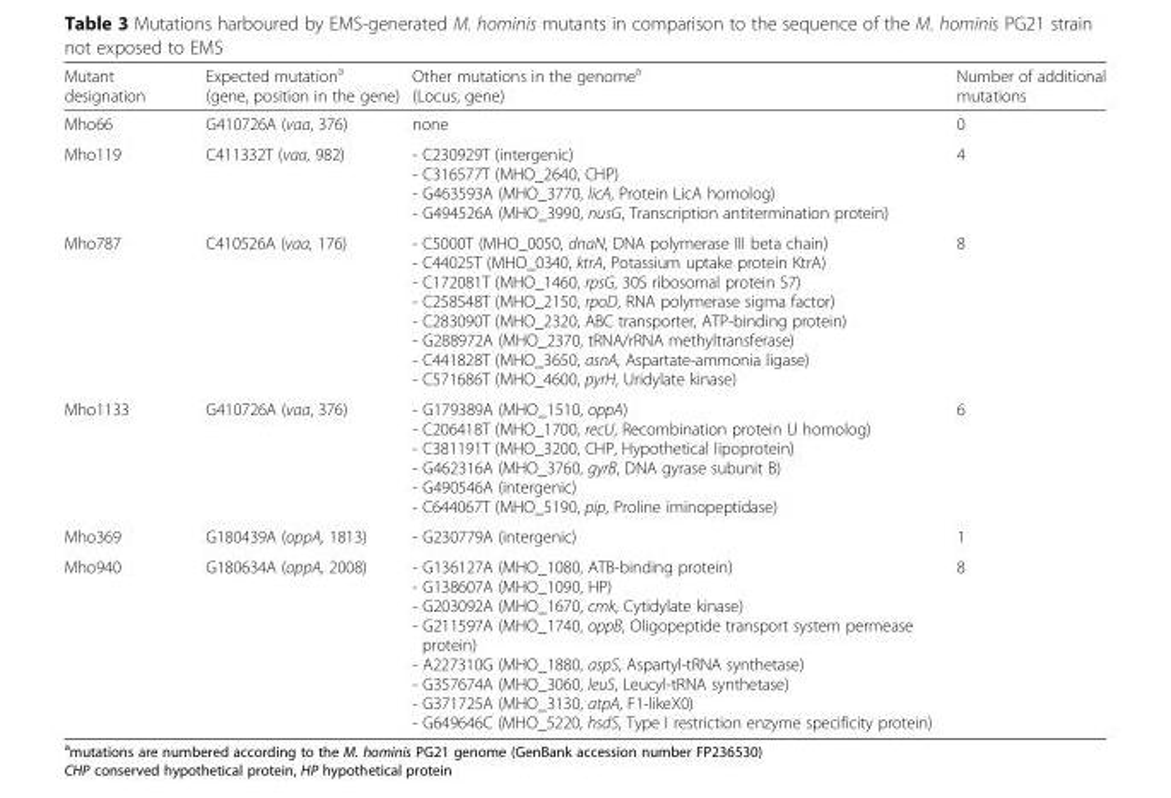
<table><thead><tr><td>Mutant designation</td><td>Expected mutation<sup>a</sup> (gene, position in the gene)</td><td>Other mutations in the genome<sup>a</sup> (Locus, gene)</td><td>Number of additional mutations</td></tr></thead><tbody><tr><td>Mho66</td><td>G410726A (vaa, 376)</td><td>none</td><td>0</td></tr><tr><td>Mho119</td><td>C411332T (vaa, 982)</td><td>- C230929T (intergenic) - C316577T (MHO_2640, CHP) - G463593A (MHO_3770, licA, Protein LicA homolog) - G494526A (MHO_3990, nusG, Transcription antitermination protein)</td><td>4</td></tr><tr><td>Mho787</td><td>C410526A (vaa, 176)</td><td>- C5000T (MHO_0050, dnaN, DNA polymerase III beta chain) - C44025T (MHO_0340, ktrA, Potassium uptake protein KtrA) - C172081T (MHO_1460, rpsG, 30S ribosomal protein S7) - C258548T (MHO_2150, rpoD, RNA polymerase sigma factor) - C283090T (MHO_2320, ABC transporter, ATP-binding protein) - G288972A (MHO_2370, tRNA/rRNA methyltransferase) - C441828T (MHO_3650, asnA, Aspartate-ammonia ligase) - C571686T (MHO_4600, pyrH, Uridylate kinase)</td><td>8</td></tr><tr><td>Mho1133</td><td>G410726A (vaa, 376)</td><td>- G179389A (MHO_1510, oppA) - C206418T (MHO_1700, recU, Recombination protein U homolog) - C381191T (MHO_3200, CHP, Hypothetical lipoprotein) - G462316A (MHO_3760, gyrB, DNA gyrase subunit B) - G490546A (intergenic) - C644067T (MHO_5190, pip, Proline iminopeptidase)</td><td>6</td></tr><tr><td>Mho369</td><td>G180439A (oppA, 1813)</td><td>- G230779A (intergenic)</td><td>1</td></tr><tr><td>Mho940</td><td>G180634A (oppA, 2008)</td><td>- G136127A (MHO_1080, ATB-binding protein) - G138607A (MHO_1090, HP) - G203092A (MHO_1670, cmk, Cytidylate kinase) - G211597A (MHO_1740, oppB, Oligopeptide transport system permease protein) - A227310G (MHO_1880, aspS, Aspartyl-tRNA synthetase) - G357674A (MHO_3060, leuS, Leucyl-tRNA synthetase) - G371725A (MHO_3130, atpA, F1-likeX0) - G649646C (MHO_5220, hsdS, Type I restriction enzyme specificity protein)</td><td>8</td></tr></tbody></table>